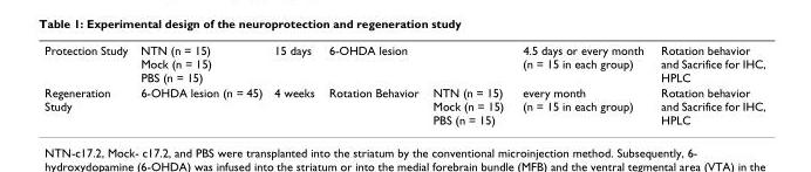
<table><tbody><tr><td>Protection Study</td><td>NTN (n = 15) Mock (n = 15) PBS (n = 15)</td><td>15 days</td><td>6-OHDA lesion</td><td></td><td>4.5 days or every month (n = 15 in each group)</td><td>Rotation behavior and Sacrifice for IHC, HPLC</td></tr><tr><td>Regeneration Study</td><td>6-OHDA lesion (n = 45)</td><td>4 weeks</td><td>Rotation Behavior</td><td>NTN (n = 15) Mock (n = 15) PBS (n = 15)</td><td>every month (n = 15 in each group)</td><td>Rotation behavior and Sacrifice for IHC, HPLC</td></tr></tbody></table>